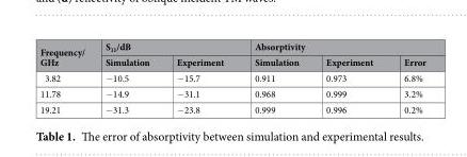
<table><thead><tr><td rowspan="2">Frequency/ GHz</td><td colspan="2">S<sub>11</sub>/dB</td><td colspan="3">Absorptivity</td></tr><tr><td>Simulation</td><td>Experiment</td><td>Simulation</td><td>Experiment</td><td>Error</td></tr></thead><tbody><tr><td>3.82</td><td>−10.5</td><td>−15.7</td><td>0.911</td><td>0.973</td><td>6.8%</td></tr><tr><td>11.78</td><td>−14.9</td><td>−31.1</td><td>0.968</td><td>0.999</td><td>3.2%</td></tr><tr><td>19.21</td><td>−31.3</td><td>−23.8</td><td>0.999</td><td>0.996</td><td>0.2%</td></tr></tbody></table>